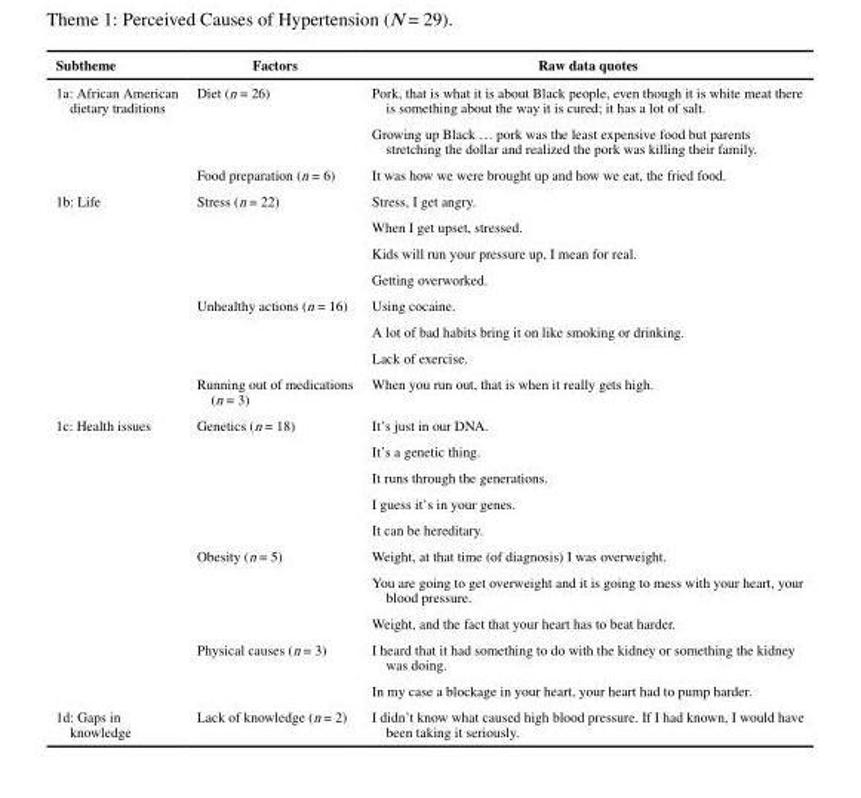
<table><thead><tr><td>Subtheme</td><td>Factors</td><td>Raw data quotes</td></tr></thead><tbody><tr><td rowspan="3">1a: African American dietary traditions</td><td>Diet (n = 26)</td><td>Pork, that is what it is about Black people, even though it is white meat there is something about the way it is cured; it has a lot of salt.</td></tr><tr><td></td><td>Growing up Black … pork was the least expensive food but parents stretching the dollar and realized the pork was killing their family.</td></tr><tr><td>Food preparation (n = 6)</td><td>It was how we were brought up and how we eat, the fried food.</td></tr><tr><td rowspan="8">1b: Life</td><td>Stress (n = 22)</td><td>Stress, I get angry.</td></tr><tr><td></td><td>When I get upset, stressed.</td></tr><tr><td></td><td>Kids will run your pressure up, I mean for real.</td></tr><tr><td></td><td>Getting overworked.</td></tr><tr><td>Unhealthy actions (n = 16)</td><td>Using cocaine.</td></tr><tr><td></td><td>A lot of bad habits bring it on like smoking or drinking.</td></tr><tr><td></td><td>Lack of exercise.</td></tr><tr><td>Running out of medications (n = 3)</td><td>When you run out, that is when it really gets high.</td></tr><tr><td rowspan="10">1c: Health issues</td><td>Genetics (n = 18)</td><td>It’s just in our DNA.</td></tr><tr><td></td><td>It’s a genetic thing.</td></tr><tr><td></td><td>It runs through the generations.</td></tr><tr><td></td><td>I guess it’s in your genes.</td></tr><tr><td></td><td>It can be hereditary.</td></tr><tr><td>Obesity (n = 5)</td><td>Weight, at that time (of diagnosis) I was overweight.</td></tr><tr><td></td><td>You are going to get overweight and it is going to mess with your heart, your blood pressure.</td></tr><tr><td></td><td>Weight, and the fact that your heart has to beat harder.</td></tr><tr><td>Physical causes (n = 3)</td><td>I heard that it had something to do with the kidney or something the kidney was doing.</td></tr><tr><td></td><td>In my case a blockage in your heart, your heart had to pump harder.</td></tr><tr><td>1d: Gaps in knowledge</td><td>Lack of knowledge (n = 2)</td><td>I didn’t know what caused high blood pressure. If I had known, I would have been taking it seriously.</td></tr></tbody></table>